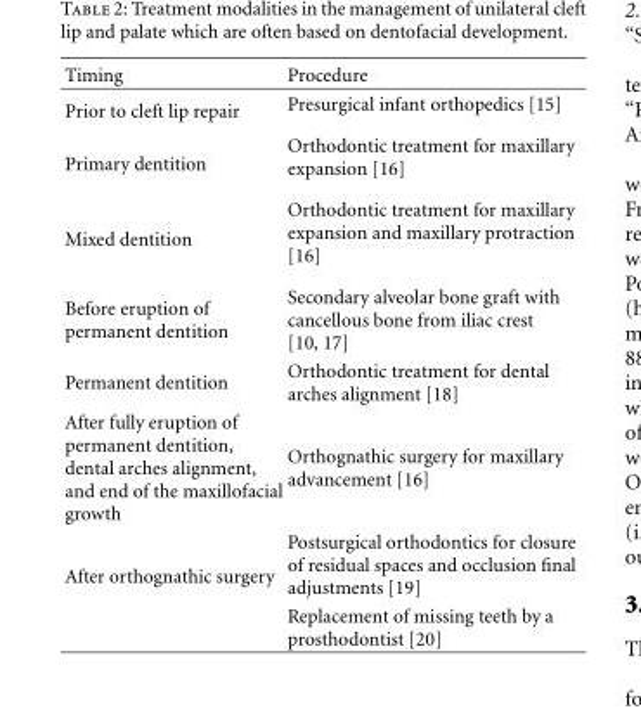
<table><thead><tr><td>Timing</td><td>Procedure</td></tr></thead><tbody><tr><td>Prior to cleft lip repair</td><td>Presurgical infant orthopedics [15]</td></tr><tr><td>Primary dentition</td><td>Orthodontic treatment for maxillary expansion [16]</td></tr><tr><td>Mixed dentition</td><td>Orthodontic treatment for maxillary expansion and maxillary protraction [16]</td></tr><tr><td>Before eruption of permanent dentition</td><td>Secondary alveolar bone graft with cancellous bone from iliac crest [10, 17]</td></tr><tr><td>Permanent dentition</td><td>Orthodontic treatment for dental arches alignment [18]</td></tr><tr><td>After fully eruption of permanent dentition, dental arches alignment, and end of the maxillofacial growth</td><td>Orthognathic surgery for maxillary advancement [16]</td></tr><tr><td rowspan="2">After orthognathic surgery</td><td>Postsurgical orthodontics for closure of residual spaces and occlusion final adjustments [19]</td></tr><tr><td>Replacement of missing teeth by a prosthodontist [20]</td></tr></tbody></table>